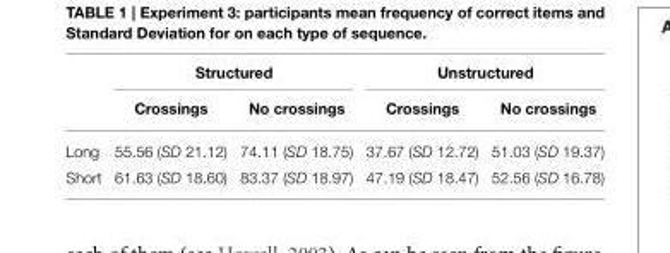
<table><thead><tr><td rowspan="2"></td><td colspan="2">Structured</td><td colspan="2">Unstructured</td></tr><tr><td>Crossings</td><td>No crossings</td><td>Crossings</td><td>No crossings</td></tr></thead><tbody><tr><td>Long</td><td>55.56 (SD 21.12)</td><td>74.11 (SD 18.75)</td><td>37.67 (SD 12.72)</td><td>51.03 (SD 19.37)</td></tr><tr><td>Short</td><td>61.63 (SD 18.60)</td><td>83.37 (SD 18.97)</td><td>47.19 (SD 18.47)</td><td>52.56 (SD 16.78)</td></tr></tbody></table>